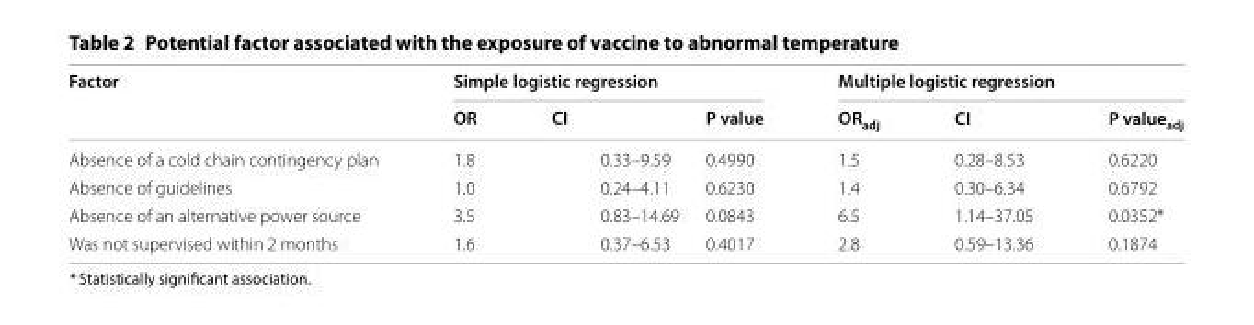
<table><thead><tr><td rowspan="2">Factor</td><td colspan="3">Simple logistic regression</td><td colspan="3">Multiple logistic regression</td></tr><tr><td>OR</td><td>CI</td><td>P value</td><td>OR<sub>adj</sub></td><td>CI</td><td>P value<sub>adj</sub></td></tr></thead><tbody><tr><td>Absence of a cold chain contingency plan</td><td>1.8</td><td>0.33–9.59</td><td>0.4990</td><td>1.5</td><td>0.28–8.53</td><td>0.6220</td></tr><tr><td>Absence of guidelines</td><td>1.0</td><td>0.24–4.11</td><td>0.6230</td><td>1.4</td><td>0.30–6.34</td><td>0.6792</td></tr><tr><td>Absence of an alternative power source</td><td>3.5</td><td>0.83–14.69</td><td>0.0843</td><td>6.5</td><td>1.14–37.05</td><td>0.0352*</td></tr><tr><td>Was not supervised within 2 months</td><td>1.6</td><td>0.37–6.53</td><td>0.4017</td><td>2.8</td><td>0.59–13.36</td><td>0.1874</td></tr></tbody></table>